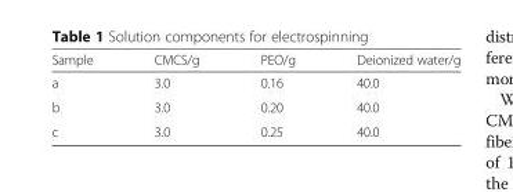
<table><thead><tr><td>Sample</td><td>CMCS/g</td><td>PEO/g</td><td>Deionized water/g</td></tr></thead><tbody><tr><td>a</td><td>3.0</td><td>0.16</td><td>40.0</td></tr><tr><td>b</td><td>3.0</td><td>0.20</td><td>40.0</td></tr><tr><td>c</td><td>3.0</td><td>0.25</td><td>40.0</td></tr></tbody></table>